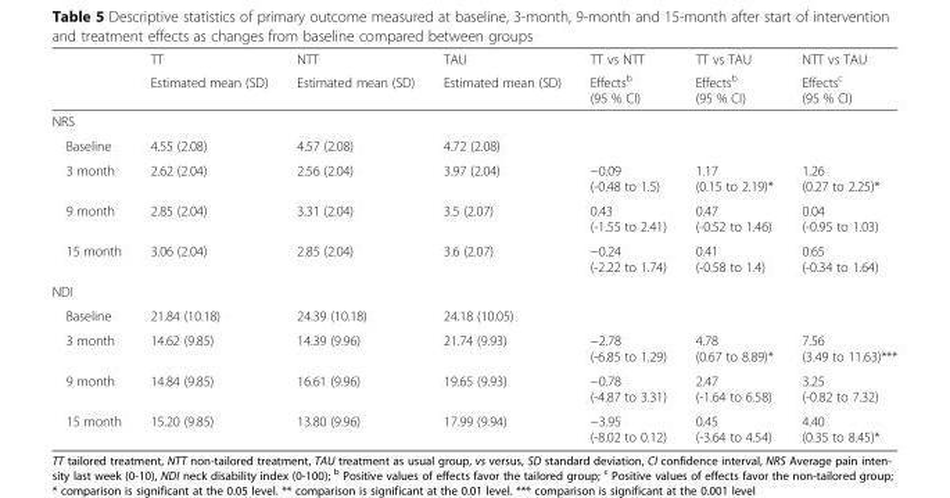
<table><thead><tr><td rowspan="2"></td><td rowspan="2">TT Estimated mean (SD)</td><td rowspan="2">NTT Estimated mean (SD)</td><td rowspan="2">TAU Estimated mean (SD)</td><td rowspan="2">TT vs NTT Effects<sup>b</sup> (95 % CI)</td><td rowspan="2">TT vs TAU Effects<sup>b</sup> (95 % CI)</td><td rowspan="2">NTT vs TAU Effects<sup>c</sup> (95 % CI)</td></tr><tr></tr></thead><tbody><tr><td colspan="7">NRS</td></tr><tr><td>Baseline</td><td>4.55 (2.08)</td><td>4.57 (2.08)</td><td>4.72 (2.08)</td><td></td><td></td><td></td></tr><tr><td>3 month</td><td>2.62 (2.04)</td><td>2.56 (2.04)</td><td>3.97 (2.04)</td><td>−0.09 (-0.48 to 1.5)</td><td>1.17 (0.15 to 2.19)*</td><td>1.26 (0.27 to 2.25)*</td></tr><tr><td>9 month</td><td>2.85 (2.04)</td><td>3.31 (2.04)</td><td>3.5 (2.07)</td><td>0.43 (-1.55 to 2.41)</td><td>0.47 (-0.52 to 1.46)</td><td>0.04 (-0.95 to 1.03)</td></tr><tr><td>15 month</td><td>3.06 (2.04)</td><td>2.85 (2.04)</td><td>3.6 (2.07)</td><td>−0.24 (-2.22 to 1.74)</td><td>0.41 (-0.58 to 1.4)</td><td>0.65 (-0.34 to 1.64)</td></tr><tr><td colspan="7">NDI</td></tr><tr><td>Baseline</td><td>21.84 (10.18)</td><td>24.39 (10.18)</td><td>24.18 (10.05)</td><td></td><td></td><td></td></tr><tr><td>3 month</td><td>14.62 (9.85)</td><td>14.39 (9.96)</td><td>21.74 (9.93)</td><td>−2.78 (-6.85 to 1.29)</td><td>4.78 (0.67 to 8.89)*</td><td>7.56 (3.49 to 11.63)***</td></tr><tr><td>9 month</td><td>14.84 (9.85)</td><td>16.61 (9.96)</td><td>19.65 (9.93)</td><td>−0.78 (-4.87 to 3.31)</td><td>2.47 (-1.64 to 6.58)</td><td>3.25 (-0.82 to 7.32)</td></tr><tr><td>15 month</td><td>15.20 (9.85)</td><td>13.80 (9.96)</td><td>17.99 (9.94)</td><td>−3.95 (-8.02 to 0.12)</td><td>0.45 (-3.64 to 4.54)</td><td>4.40 (0.35 to 8.45)*</td></tr></tbody></table>